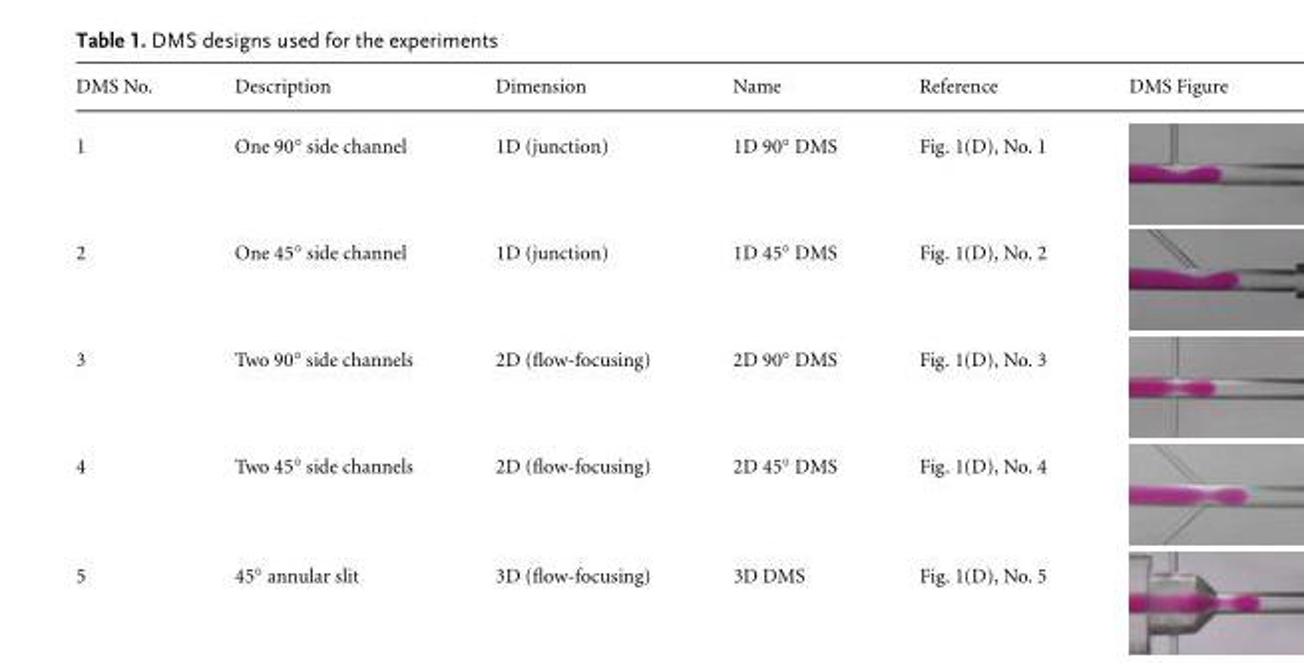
<table><thead><tr><td>DMS No.</td><td>Description</td><td>Dimension</td><td>Name</td><td>Reference</td><td>DMS Figure</td></tr></thead><tbody><tr><td>1</td><td>One 90° side channel</td><td>1D (junction)</td><td>1D 90° DMS</td><td>Fig. 1(D), No. 1</td><td></td></tr><tr><td>2</td><td>One 45° side channel</td><td>1D (junction)</td><td>1D 45° DMS</td><td>Fig. 1(D), No. 2</td><td></td></tr><tr><td>3</td><td>Two 90° side channels</td><td>2D (flow-focusing)</td><td>2D 90° DMS</td><td>Fig. 1(D), No. 3</td><td></td></tr><tr><td>4</td><td>Two 45° side channels</td><td>2D (flow-focusing)</td><td>2D 45° DMS</td><td>Fig. 1(D), No. 4</td><td></td></tr><tr><td>5</td><td>45° annular slit</td><td>3D (flow-focusing)</td><td>3D DMS</td><td>Fig. 1(D), No. 5</td><td></td></tr></tbody></table>